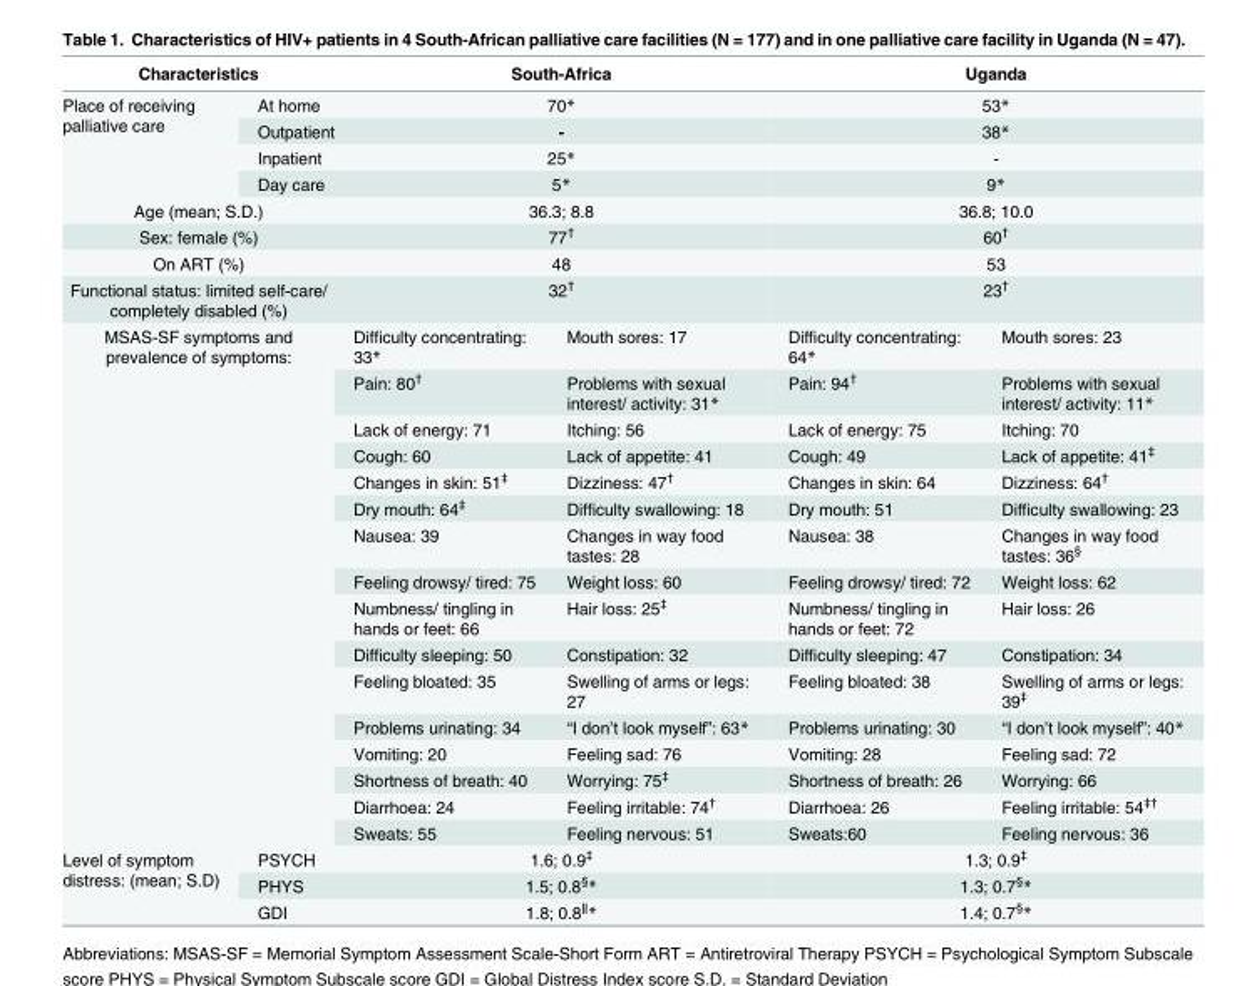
<table><thead><tr><td colspan="2">Characteristics</td><td colspan="2">South-Africa</td><td colspan="2">Uganda</td></tr></thead><tbody><tr><td rowspan="4">Place of receiving palliative care</td><td>At home</td><td colspan="2">70*</td><td colspan="2">53*</td></tr><tr><td>Outpatient</td><td colspan="2">-</td><td colspan="2">38*</td></tr><tr><td>Inpatient</td><td colspan="2">25*</td><td colspan="2">-</td></tr><tr><td>Day care</td><td colspan="2">5*</td><td colspan="2">9*</td></tr><tr><td colspan="2">Age (mean; S.D.)</td><td colspan="2">36.3; 8.8</td><td colspan="2">36.8; 10.0</td></tr><tr><td colspan="2">Sex: female (%)</td><td colspan="2">77<sup>†</sup></td><td colspan="2">60<sup>†</sup></td></tr><tr><td colspan="2">On ART (%)</td><td colspan="2">48</td><td colspan="2">53</td></tr><tr><td colspan="2">Functional status: limited self-care/ completely disabled (%)</td><td colspan="2">32<sup>†</sup></td><td colspan="2">23<sup>†</sup></td></tr><tr><td rowspan="16" colspan="2">MSAS-SF symptoms and prevalence of symptoms:</td><td>Difficulty concentrating: 33*</td><td>Mouth sores: 17</td><td>Difficulty concentrating: 64*</td><td>Mouth sores: 23</td></tr><tr><td>Pain: 80<sup>†</sup></td><td>Problems with sexual interest/ activity: 31*</td><td>Pain: 94<sup>†</sup></td><td>Problems with sexual interest/ activity: 11*</td></tr><tr><td>Lack of energy: 71</td><td>Itching: 56</td><td>Lack of energy: 75</td><td>Itching: 70</td></tr><tr><td>Cough: 60</td><td>Lack of appetite: 41</td><td>Cough: 49</td><td>Lack of appetite: 41<sup>‡</sup></td></tr><tr><td>Changes in skin: 51<sup>‡</sup></td><td>Dizziness: 47<sup>†</sup></td><td>Changes in skin: 64</td><td>Dizziness: 64<sup>†</sup></td></tr><tr><td>Dry mouth: 64<sup>‡</sup></td><td>Difficulty swallowing: 18</td><td>Dry mouth: 51</td><td>Difficulty swallowing: 23</td></tr><tr><td>Nausea: 39</td><td>Changes in way food tastes: 28</td><td>Nausea: 38</td><td>Changes in way food tastes: 36<sup>§</sup></td></tr><tr><td>Feeling drowsy/ tired: 75</td><td>Weight loss: 60</td><td>Feeling drowsy/ tired: 72</td><td>Weight loss: 62</td></tr><tr><td>Numbness/ tingling in hands or feet: 66</td><td>Hair loss: 25<sup>‡</sup></td><td>Numbness/ tingling in hands or feet: 72</td><td>Hair loss: 26</td></tr><tr><td>Difficulty sleeping: 50</td><td>Constipation: 32</td><td>Difficulty sleeping: 47</td><td>Constipation: 34</td></tr><tr><td>Feeling bloated: 35</td><td>Swelling of arms or legs: 27</td><td>Feeling bloated: 38</td><td>Swelling of arms or legs: 39<sup>‡</sup></td></tr><tr><td>Problems urinating: 34</td><td>“I don’t look myself”: 63*</td><td>Problems urinating: 30</td><td>“I don’t look myself”: 40*</td></tr><tr><td>Vomiting: 20</td><td>Feeling sad: 76</td><td>Vomiting: 28</td><td>Feeling sad: 72</td></tr><tr><td>Shortness of breath: 40</td><td>Worrying: 75<sup>‡</sup></td><td>Shortness of breath: 26</td><td>Worrying: 66</td></tr><tr><td>Diarrhoea: 24</td><td>Feeling irritable: 74<sup>†</sup></td><td>Diarrhoea: 26</td><td>Feeling irritable: 54<sup>‡†</sup></td></tr><tr><td>Sweats: 55</td><td>Feeling nervous: 51</td><td>Sweats:60</td><td>Feeling nervous: 36</td></tr><tr><td rowspan="3">Level of symptom distress: (mean; S.D)</td><td>PSYCH</td><td colspan="2">1.6; 0.9<sup>‡</sup></td><td colspan="2">1.3; 0.9<sup>‡</sup></td></tr><tr><td>PHYS</td><td colspan="2">1.5; 0.8<sup>§</sup>*</td><td colspan="2">1.3; 0.7<sup>§</sup>*</td></tr><tr><td>GDI</td><td colspan="2">1.8; 0.8<sup>ǁ</sup>*</td><td colspan="2">1.4; 0.7<sup>§</sup>*</td></tr></tbody></table>